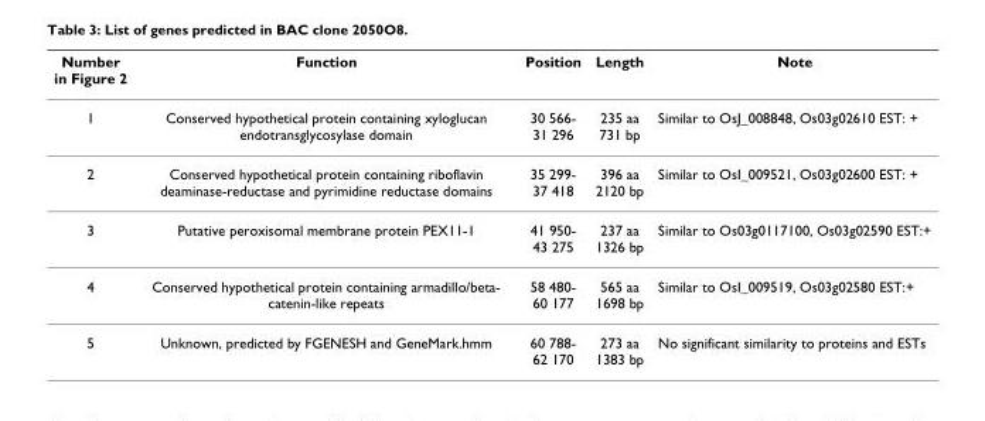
<table><thead><tr><td>Number in Figure 2</td><td>Function</td><td>Position</td><td>Length</td><td>Note</td></tr></thead><tbody><tr><td>1</td><td>Conserved hypothetical protein containing xyloglucan endotransglycosylase domain</td><td>30 566- 31 296</td><td>235 aa 731 bp</td><td>Similar to OsJ_008848, Os03g02610 EST: +</td></tr><tr><td>2</td><td>Conserved hypothetical protein containing riboflavin deaminase-reductase and pyrimidine reductase domains</td><td>35 299- 37 418</td><td>396 aa 2120 bp</td><td>Similar to OsI_009521, Os03g02600 EST: +</td></tr><tr><td>3</td><td>Putative peroxisomal membrane protein PEX11-1</td><td>41 950- 43 275</td><td>237 aa 1326 bp</td><td>Similar to Os03g0117100, Os03g02590 EST:+</td></tr><tr><td>4</td><td>Conserved hypothetical protein containing armadillo/beta- catenin-like repeats</td><td>58 480- 60 177</td><td>565 aa 1698 bp</td><td>Similar to OsI_009519, Os03g02580 EST:+</td></tr><tr><td>5</td><td>Unknown, predicted by FGENESH and GeneMark.hmm</td><td>60 788- 62 170</td><td>273 aa 1383 bp</td><td>No significant similarity to proteins and ESTs</td></tr></tbody></table>